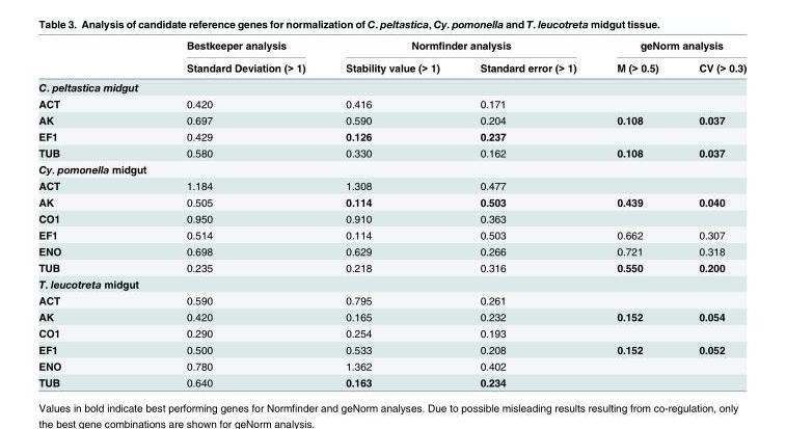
<table><thead><tr><td rowspan="2"></td><td rowspan="2">Bestkeeper analysis Standard Deviation (&gt; 1)</td><td colspan="2">Normfinder analysis</td><td colspan="2">geNorm analysis</td></tr><tr><td>Stability value (&gt; 1)</td><td>Standard error (&gt; 1)</td><td>M (&gt; 0.5)</td><td>CV (&gt; 0.3)</td></tr></thead><tbody><tr><td colspan="6">C. peltastica midgut</td></tr><tr><td>ACT</td><td>0.420</td><td>0.416</td><td>0.171</td><td></td><td></td></tr><tr><td>AK</td><td>0.697</td><td>0.590</td><td>0.204</td><td>0.108</td><td>0.037</td></tr><tr><td>EF1</td><td>0.429</td><td>0.126</td><td>0.237</td><td></td><td></td></tr><tr><td>TUB</td><td>0.580</td><td>0.330</td><td>0.162</td><td>0.108</td><td>0.037</td></tr><tr><td colspan="6">Cy. pomonella midgut</td></tr><tr><td>ACT</td><td>1.184</td><td>1.308</td><td>0.477</td><td></td><td></td></tr><tr><td>AK</td><td>0.505</td><td>0.114</td><td>0.503</td><td>0.439</td><td>0.040</td></tr><tr><td>CO1</td><td>0.950</td><td>0.910</td><td>0.363</td><td></td><td></td></tr><tr><td>EF1</td><td>0.514</td><td>0.114</td><td>0.503</td><td>0.662</td><td>0.307</td></tr><tr><td>ENO</td><td>0.698</td><td>0.629</td><td>0.266</td><td>0.721</td><td>0.318</td></tr><tr><td>TUB</td><td>0.235</td><td>0.218</td><td>0.316</td><td>0.550</td><td>0.200</td></tr><tr><td colspan="6">T. leucotreta midgut</td></tr><tr><td>ACT</td><td>0.590</td><td>0.795</td><td>0.261</td><td></td><td></td></tr><tr><td>AK</td><td>0.420</td><td>0.165</td><td>0.232</td><td>0.152</td><td>0.054</td></tr><tr><td>CO1</td><td>0.290</td><td>0.254</td><td>0.193</td><td></td><td></td></tr><tr><td>EF1</td><td>0.500</td><td>0.533</td><td>0.208</td><td>0.152</td><td>0.052</td></tr><tr><td>ENO</td><td>0.780</td><td>1.362</td><td>0.402</td><td></td><td></td></tr><tr><td>TUB</td><td>0.640</td><td>0.163</td><td>0.234</td><td></td><td></td></tr></tbody></table>